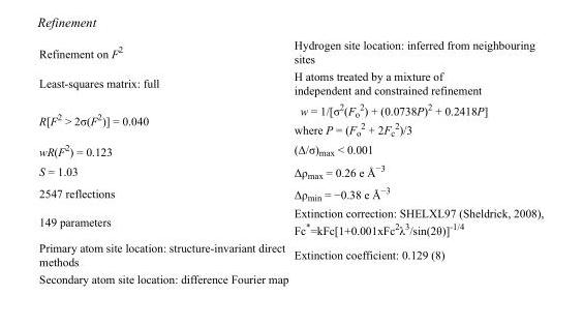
<table><tbody><tr><td>Refinement on F<sup>2</sup></td><td>Hydrogen site location: inferred from neighbouring sites</td></tr><tr><td>Least-squares matrix: full</td><td>H atoms treated by a mixture of independent and constrained refinement</td></tr><tr><td>R[F<sup>2</sup> &gt; 2σ(F<sup>2</sup>)] = 0.040</td><td>w = 1/[σ<sup>2</sup>(F<sub>o</sub> <sup>2</sup>) + (0.0738P)<sup>2</sup> + 0.2418P] where P = (F<sub>o</sub> <sup>2</sup> + 2F<sub>c</sub> <sup>2</sup>)/3</td></tr><tr><td>wR(F<sup>2</sup>) = 0.123</td><td>(Δ/σ)<sub>max</sub> &lt; 0.001</td></tr><tr><td>S = 1.03</td><td>Δρ<sub>max</sub> = 0.26 e Å<sup>−3</sup></td></tr><tr><td>2547 reflections</td><td>Δρ<sub>min</sub> = −0.38 e Å<sup>−3</sup></td></tr><tr><td>149 parameters</td><td>Extinction correction: SHELXL97 (Sheldrick, 2008), Fc*=kFc[1+0.001xFc<sup>2</sup>λ<sup>3</sup>/sin(2θ)]<sup>-1/4</sup></td></tr><tr><td>Primary atom site location: structure-invariant direct methods</td><td>Extinction coefficient: 0.129 (8)</td></tr><tr><td>Secondary atom site location: difference Fourier map</td><td></td></tr></tbody></table>